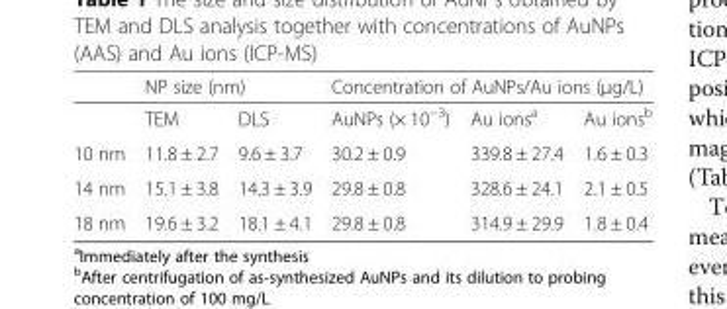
<table><thead><tr><td rowspan="2"></td><td colspan="2">NP size (nm)</td><td colspan="3">Concentration of AuNPs/Au ions (μg/L)</td></tr><tr><td>TEM</td><td>DLS</td><td>AuNPs (× 10<sup>−3</sup>)</td><td>Au ions<sup>a</sup></td><td>Au ions<sup>b</sup></td></tr></thead><tbody><tr><td>10 nm</td><td>11.8 ± 2.7</td><td>9.6 ± 3.7</td><td>30.2 ± 0.9</td><td>339.8 ± 27.4</td><td>1.6 ± 0.3</td></tr><tr><td>14 nm</td><td>15.1 ± 3.8</td><td>14.3 ± 3.9</td><td>29.8 ± 0.8</td><td>328.6 ± 24.1</td><td>2.1 ± 0.5</td></tr><tr><td>18 nm</td><td>19.6 ± 3.2</td><td>18.1 ± 4.1</td><td>29.8 ± 0.8</td><td>314.9 ± 29.9</td><td>1.8 ± 0.4</td></tr></tbody></table>